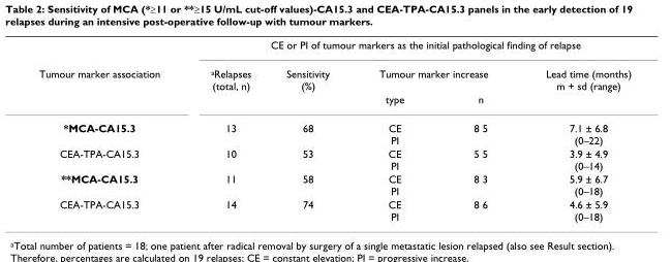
<table><thead><tr><td rowspan="3">Tumour marker association</td><td colspan="5">CE or PI of tumour markers as the initial pathological finding of relapse</td></tr><tr><td rowspan="2">aRelapses (total, n)</td><td rowspan="2">Sensitivity (%)</td><td colspan="2">Tumour marker increase</td><td rowspan="2">Lead time (months) m + sd (range)</td></tr><tr><td>type</td><td>n</td></tr></thead><tbody><tr><td>*MCA-CA15.3</td><td>13</td><td>68</td><td>CE PI</td><td>8 5</td><td>7.1 ± 6.8 (0–22)</td></tr><tr><td>CEA-TPA-CA15.3</td><td>10</td><td>53</td><td>CE PI</td><td>5 5</td><td>3.9 ± 4.9 (0–14)</td></tr><tr><td>**MCA-CA15.3</td><td>11</td><td>58</td><td>CE PI</td><td>8 3</td><td>5.9 ± 6.7 (0–18)</td></tr><tr><td>CEA-TPA-CA15.3</td><td>14</td><td>74</td><td>CE PI</td><td>8 6</td><td>4.6 ± 5.9 (0–18)</td></tr></tbody></table>